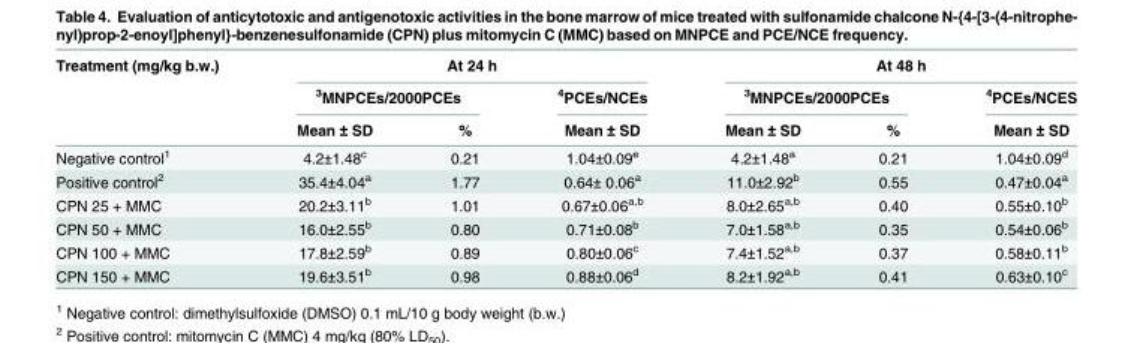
<table><thead><tr><td rowspan="3">Treatment (mg/kg b.w.)</td><td colspan="3">At 24 h</td><td colspan="3">At 48 h</td></tr><tr><td colspan="2"><sup>3</sup>MNPCEs/2000PCEs</td><td rowspan="2">4PCEs/NCEs Mean ± SD</td><td colspan="2"><sup>3</sup>MNPCEs/2000PCEs</td><td rowspan="2">4PCEs/NCES Mean ± SD</td></tr><tr><td>Mean ± SD</td><td>%</td><td>Mean ± SD</td><td>%</td></tr></thead><tbody><tr><td>Negative control<sup>1</sup></td><td>4.2±1.48<sup>c</sup></td><td>0.21</td><td>1.04±0.09<sup>e</sup></td><td>4.2±1.48<sup>a</sup></td><td>0.21</td><td>1.04±0.09<sup>d</sup></td></tr><tr><td>Positive control<sup>2</sup></td><td>35.4±4.04<sup>a</sup></td><td>1.77</td><td>0.64± 0.06<sup>a</sup></td><td>11.0±2.92<sup>b</sup></td><td>0.55</td><td>0.47±0.04<sup>a</sup></td></tr><tr><td>CPN 25 + MMC</td><td>20.2±3.11<sup>b</sup></td><td>1.01</td><td>0.67±0.06<sup>a,b</sup></td><td>8.0±2.65<sup>a,b</sup></td><td>0.40</td><td>0.55±0.10<sup>b</sup></td></tr><tr><td>CPN 50 + MMC</td><td>16.0±2.55<sup>b</sup></td><td>0.80</td><td>0.71±0.08<sup>b</sup></td><td>7.0±1.58<sup>a,b</sup></td><td>0.35</td><td>0.54±0.06<sup>b</sup></td></tr><tr><td>CPN 100 + MMC</td><td>17.8±2.59<sup>b</sup></td><td>0.89</td><td>0.80±0.06<sup>c</sup></td><td>7.4±1.52<sup>a,b</sup></td><td>0.37</td><td>0.58±0.11<sup>b</sup></td></tr><tr><td>CPN 150 + MMC</td><td>19.6±3.51<sup>b</sup></td><td>0.98</td><td>0.88±0.06<sup>d</sup></td><td>8.2±1.92<sup>a,b</sup></td><td>0.41</td><td>0.63±0.10<sup>c</sup></td></tr></tbody></table>